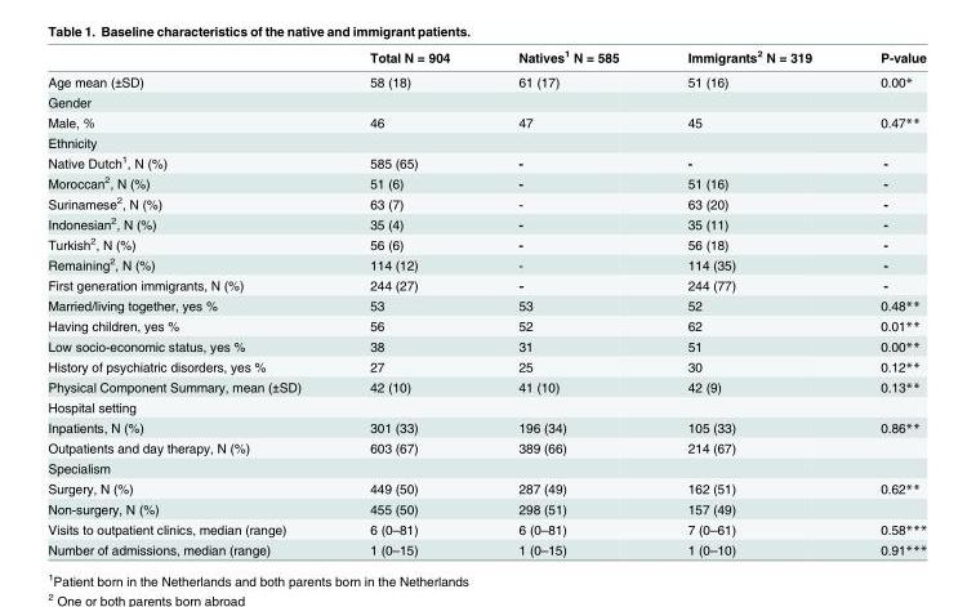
<table><thead><tr><td></td><td>Total N = 904</td><td>Natives<sup>1</sup> N = 585</td><td>Immigrants<sup>2</sup> N = 319</td><td>P-value</td></tr></thead><tbody><tr><td>Age mean (±SD)</td><td>58 (18)</td><td>61 (17)</td><td>51 (16)</td><td>0.00*</td></tr><tr><td colspan="5">Gender</td></tr><tr><td>Male, %</td><td>46</td><td>47</td><td>45</td><td>0.47**</td></tr><tr><td colspan="5">Ethnicity</td></tr><tr><td>Native Dutch<sup>1</sup>, N (%)</td><td>585 (65)</td><td>-</td><td>-</td><td>-</td></tr><tr><td>Moroccan<sup>2</sup>, N (%)</td><td>51 (6)</td><td>-</td><td>51 (16)</td><td>-</td></tr><tr><td>Surinamese<sup>2</sup>, N (%)</td><td>63 (7)</td><td>-</td><td>63 (20)</td><td>-</td></tr><tr><td>Indonesian<sup>2</sup>, N (%)</td><td>35 (4)</td><td>-</td><td>35 (11)</td><td>-</td></tr><tr><td>Turkish<sup>2</sup>, N (%)</td><td>56 (6)</td><td>-</td><td>56 (18)</td><td>-</td></tr><tr><td>Remaining<sup>2</sup>, N (%)</td><td>114 (12)</td><td>-</td><td>114 (35)</td><td>-</td></tr><tr><td>First generation immigrants, N (%)</td><td>244 (27)</td><td>-</td><td>244 (77)</td><td>-</td></tr><tr><td>Married/living together, yes %</td><td>53</td><td>53</td><td>52</td><td>0.48**</td></tr><tr><td>Having children, yes %</td><td>56</td><td>52</td><td>62</td><td>0.01**</td></tr><tr><td>Low socio-economic status, yes %</td><td>38</td><td>31</td><td>51</td><td>0.00**</td></tr><tr><td>History of psychiatric disorders, yes %</td><td>27</td><td>25</td><td>30</td><td>0.12**</td></tr><tr><td>Physical Component Summary, mean (±SD)</td><td>42 (10)</td><td>41 (10)</td><td>42 (9)</td><td>0.13**</td></tr><tr><td colspan="5">Hospital setting</td></tr><tr><td>Inpatients, N (%)</td><td>301 (33)</td><td>196 (34)</td><td>105 (33)</td><td>0.86**</td></tr><tr><td>Outpatients and day therapy, N (%)</td><td>603 (67)</td><td>389 (66)</td><td>214 (67)</td><td></td></tr><tr><td colspan="5">Specialism</td></tr><tr><td>Surgery, N (%)</td><td>449 (50)</td><td>287 (49)</td><td>162 (51)</td><td>0.62**</td></tr><tr><td>Non-surgery, N (%)</td><td>455 (50)</td><td>298 (51)</td><td>157 (49)</td><td></td></tr><tr><td>Visits to outpatient clinics, median (range)</td><td>6 (0–81)</td><td>6 (0–81)</td><td>7 (0–61)</td><td>0.58***</td></tr><tr><td>Number of admissions, median (range)</td><td>1 (0–15)</td><td>1 (0–15)</td><td>1 (0–10)</td><td>0.91***</td></tr></tbody></table>